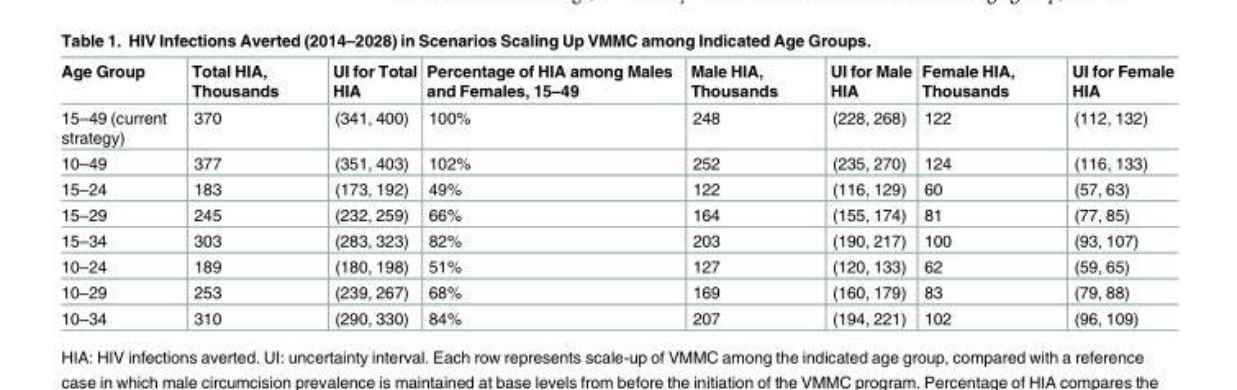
<table><thead><tr><td>Age Group</td><td>Total HIA, Thousands</td><td>UI for Total HIA</td><td>Percentage of HIA among Males and Females, 15–49</td><td>Male HIA, Thousands</td><td>UI for Male HIA</td><td>Female HIA, Thousands</td><td>UI for Female HIA</td></tr></thead><tbody><tr><td>15–49 (current strategy)</td><td>370</td><td>(341, 400)</td><td>100%</td><td>248</td><td>(228, 268)</td><td>122</td><td>(112, 132)</td></tr><tr><td>10–49</td><td>377</td><td>(351, 403)</td><td>102%</td><td>252</td><td>(235, 270)</td><td>124</td><td>(116, 133)</td></tr><tr><td>15–24</td><td>183</td><td>(173, 192)</td><td>49%</td><td>122</td><td>(116, 129)</td><td>60</td><td>(57, 63)</td></tr><tr><td>15–29</td><td>245</td><td>(232, 259)</td><td>66%</td><td>164</td><td>(155, 174)</td><td>81</td><td>(77, 85)</td></tr><tr><td>15–34</td><td>303</td><td>(283, 323)</td><td>82%</td><td>203</td><td>(190, 217)</td><td>100</td><td>(93, 107)</td></tr><tr><td>10–24</td><td>189</td><td>(180, 198)</td><td>51%</td><td>127</td><td>(120, 133)</td><td>62</td><td>(59, 65)</td></tr><tr><td>10–29</td><td>253</td><td>(239, 267)</td><td>68%</td><td>169</td><td>(160, 179)</td><td>83</td><td>(79, 88)</td></tr><tr><td>10–34</td><td>310</td><td>(290, 330)</td><td>84%</td><td>207</td><td>(194, 221)</td><td>102</td><td>(96, 109)</td></tr></tbody></table>